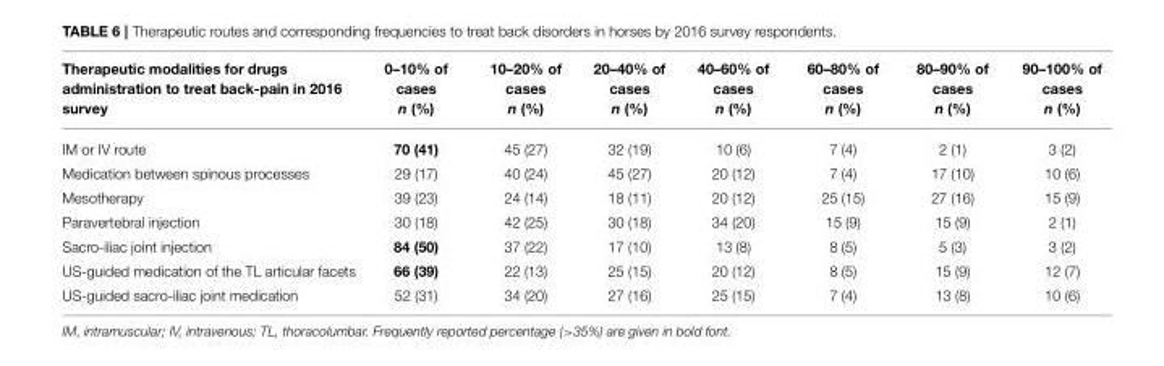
<table><thead><tr><td>Therapeutic modalities for drugs administration to treat back-pain in 2016 survey</td><td>0–10% of cases n (%)</td><td>10–20% of cases n (%)</td><td>20–40% of cases n (%)</td><td>40–60% of cases n (%)</td><td>60–80% of cases n (%)</td><td>80–90% of cases n (%)</td><td>90–100% of cases n (%)</td></tr></thead><tbody><tr><td>IM or IV route</td><td>70 (41)</td><td>45 (27)</td><td>32 (19)</td><td>10 (6)</td><td>7 (4)</td><td>2 (1)</td><td>3 (2)</td></tr><tr><td>Medication between spinous processes</td><td>29 (17)</td><td>40 (24)</td><td>45 (27)</td><td>20 (12)</td><td>7 (4)</td><td>17 (10)</td><td>10 (6)</td></tr><tr><td>Mesotherapy</td><td>39 (23)</td><td>24 (14)</td><td>18 (11)</td><td>20 (12)</td><td>25 (15)</td><td>27 (16)</td><td>15 (9)</td></tr><tr><td>Paravertebral injection</td><td>30 (18)</td><td>42 (25)</td><td>30 (18)</td><td>34 (20)</td><td>15 (9)</td><td>15 (9)</td><td>2 (1)</td></tr><tr><td>Sacro-iliac joint injection</td><td>84 (50)</td><td>37 (22)</td><td>17 (10)</td><td>13 (8)</td><td>8 (5)</td><td>5 (3)</td><td>3 (2)</td></tr><tr><td>US-guided medication of the TL articular facets</td><td>66 (39)</td><td>22 (13)</td><td>25 (15)</td><td>20 (12)</td><td>8 (5)</td><td>15 (9)</td><td>12 (7)</td></tr><tr><td>US-guided sacro-iliac joint medication</td><td>52 (31)</td><td>34 (20)</td><td>27 (16)</td><td>25 (15)</td><td>7 (4)</td><td>13 (8)</td><td>10 (6)</td></tr></tbody></table>